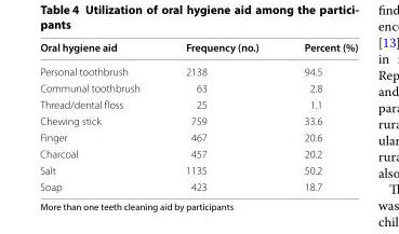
<table><thead><tr><td>Oral hygiene aid</td><td>Frequency (no.)</td><td>Percent (%)</td></tr></thead><tbody><tr><td>Personal toothbrush</td><td>2138</td><td>94.5</td></tr><tr><td>Communal toothbrush</td><td>63</td><td>2.8</td></tr><tr><td>Thread/dental floss</td><td>25</td><td>1.1</td></tr><tr><td>Chewing stick</td><td>759</td><td>33.6</td></tr><tr><td>Finger</td><td>467</td><td>20.6</td></tr><tr><td>Charcoal</td><td>457</td><td>20.2</td></tr><tr><td>Salt</td><td>1135</td><td>50.2</td></tr><tr><td>Soap</td><td>423</td><td>18.7</td></tr></tbody></table>